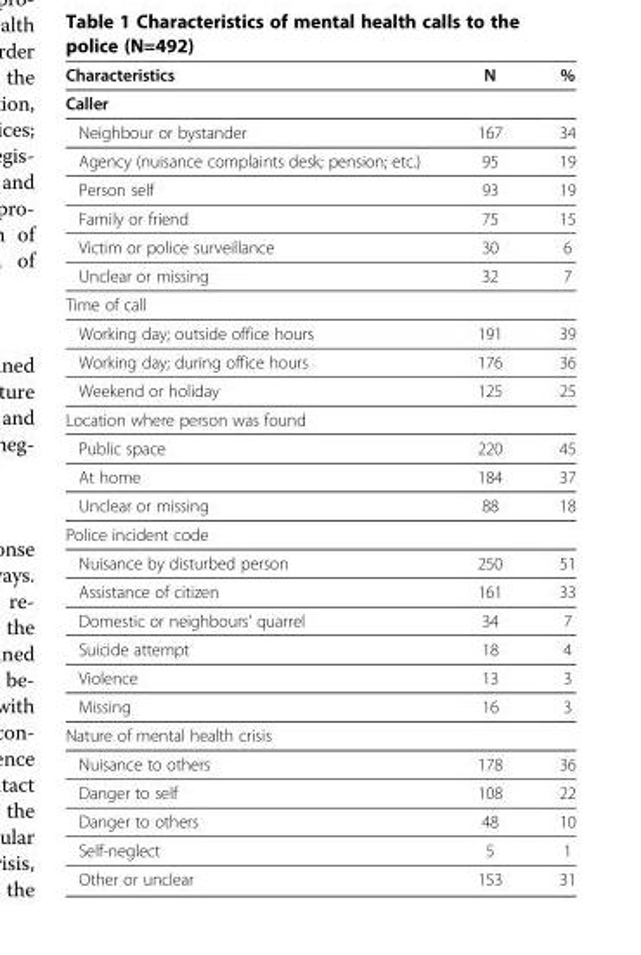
<table><thead><tr><td rowspan="2">Characteristics Caller</td><td rowspan="2">N</td><td rowspan="2">%</td></tr><tr></tr></thead><tbody><tr><td>Neighbour or bystander</td><td>167</td><td>34</td></tr><tr><td>Agency (nuisance complaints desk; pension; etc.)</td><td>95</td><td>19</td></tr><tr><td>Person self</td><td>93</td><td>19</td></tr><tr><td>Family or friend</td><td>75</td><td>15</td></tr><tr><td>Victim or police surveillance</td><td>30</td><td>6</td></tr><tr><td>Unclear or missing</td><td>32</td><td>7</td></tr><tr><td colspan="3">Time of call</td></tr><tr><td>Working day; outside office hours</td><td>191</td><td>39</td></tr><tr><td>Working day; during office hours</td><td>176</td><td>36</td></tr><tr><td>Weekend or holiday</td><td>125</td><td>25</td></tr><tr><td colspan="3">Location where person was found</td></tr><tr><td>Public space</td><td>220</td><td>45</td></tr><tr><td>At home</td><td>184</td><td>37</td></tr><tr><td>Unclear or missing</td><td>88</td><td>18</td></tr><tr><td colspan="3">Police incident code</td></tr><tr><td>Nuisance by disturbed person</td><td>250</td><td>51</td></tr><tr><td>Assistance of citizen</td><td>161</td><td>33</td></tr><tr><td>Domestic or neighbours’ quarrel</td><td>34</td><td>7</td></tr><tr><td>Suicide attempt</td><td>18</td><td>4</td></tr><tr><td>Violence</td><td>13</td><td>3</td></tr><tr><td>Missing</td><td>16</td><td>3</td></tr><tr><td colspan="3">Nature of mental health crisis</td></tr><tr><td>Nuisance to others</td><td>178</td><td>36</td></tr><tr><td>Danger to self</td><td>108</td><td>22</td></tr><tr><td>Danger to others</td><td>48</td><td>10</td></tr><tr><td>Self-neglect</td><td>5</td><td>1</td></tr><tr><td>Other or unclear</td><td>153</td><td>31</td></tr></tbody></table>